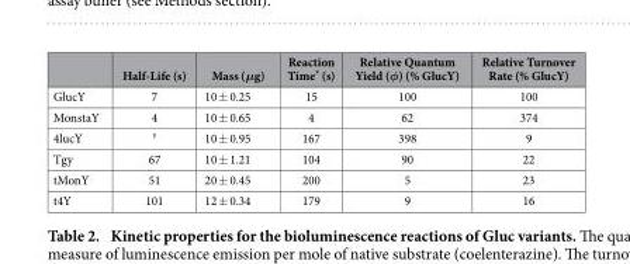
<table><thead><tr><td></td><td>Half-Life (s)</td><td>Mass (μg)</td><td>Reaction Time* (s)</td><td>Relative Quantum Yield (φ) (% GlucY)</td><td>Relative Turnover Rate (% GlucY)</td></tr></thead><tbody><tr><td>GlucY</td><td>7</td><td>10 ± 0.25</td><td>15</td><td>100</td><td>100</td></tr><tr><td>MonstaY</td><td>4</td><td>10 ± 0.65</td><td>4</td><td>62</td><td>374</td></tr><tr><td>4lucY</td><td>†</td><td>10 ± 0.95</td><td>167</td><td>398</td><td>9</td></tr><tr><td>Tgy</td><td>67</td><td>10 ± 1.21</td><td>104</td><td>90</td><td>22</td></tr><tr><td>tMonY</td><td>51</td><td>20 ± 0.45</td><td>200</td><td>5</td><td>23</td></tr><tr><td>t4Y</td><td>101</td><td>12 ± 0.34</td><td>179</td><td>9</td><td>16</td></tr></tbody></table>